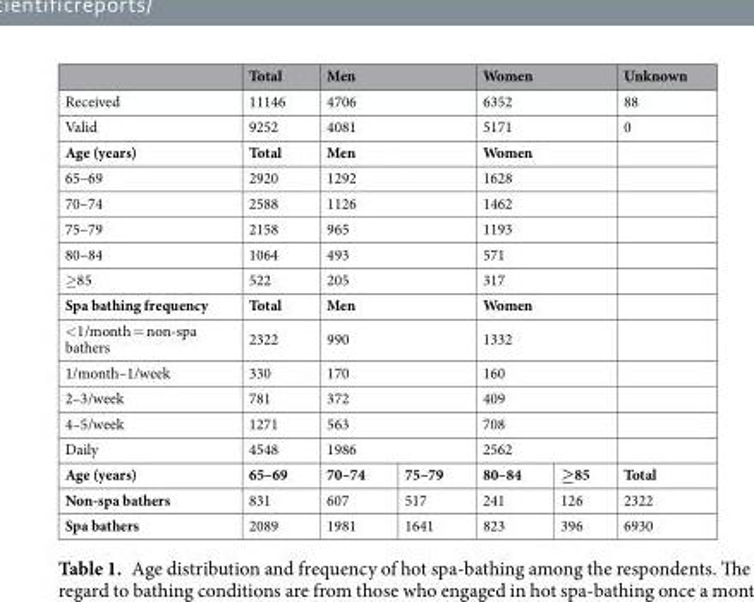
<table><thead><tr><td></td><td>Total</td><td colspan="2">Men</td><td colspan="2">Women</td><td>Unknown</td></tr></thead><tbody><tr><td>Received</td><td>11146</td><td colspan="2">4706</td><td colspan="2">6352</td><td>88</td></tr><tr><td>Valid</td><td>9252</td><td colspan="2">4081</td><td colspan="2">5171</td><td>0</td></tr><tr><td>Age (years)</td><td>Total</td><td colspan="2">Men</td><td colspan="2">Women</td><td></td></tr><tr><td>65–69</td><td>2920</td><td colspan="2">1292</td><td colspan="2">1628</td><td></td></tr><tr><td>70–74</td><td>2588</td><td colspan="2">1126</td><td colspan="2">1462</td><td></td></tr><tr><td>75–79</td><td>2158</td><td colspan="2">965</td><td colspan="2">1193</td><td></td></tr><tr><td>80–84</td><td>1064</td><td colspan="2">493</td><td colspan="2">571</td><td></td></tr><tr><td>≥85</td><td>522</td><td colspan="2">205</td><td colspan="2">317</td><td></td></tr><tr><td>Spa bathing frequency</td><td>Total</td><td colspan="2">Men</td><td colspan="2">Women</td><td></td></tr><tr><td>&lt;1/month = non-spa bathers</td><td>2322</td><td colspan="2">990</td><td colspan="2">1332</td><td></td></tr><tr><td>1/month–1/week</td><td>330</td><td colspan="2">170</td><td colspan="2">160</td><td></td></tr><tr><td>2–3/week</td><td>781</td><td colspan="2">372</td><td colspan="2">409</td><td></td></tr><tr><td>4–5/week</td><td>1271</td><td colspan="2">563</td><td colspan="2">708</td><td></td></tr><tr><td>Daily</td><td>4548</td><td colspan="2">1986</td><td colspan="2">2562</td><td></td></tr><tr><td>Age (years)</td><td>65–69</td><td>70–74</td><td>75–79</td><td>80–84</td><td>≥85</td><td>Total</td></tr><tr><td>Non-spa bathers</td><td>831</td><td>607</td><td>517</td><td>241</td><td>126</td><td>2322</td></tr><tr><td>Spa bathers</td><td>2089</td><td>1981</td><td>1641</td><td>823</td><td>396</td><td>6930</td></tr></tbody></table>